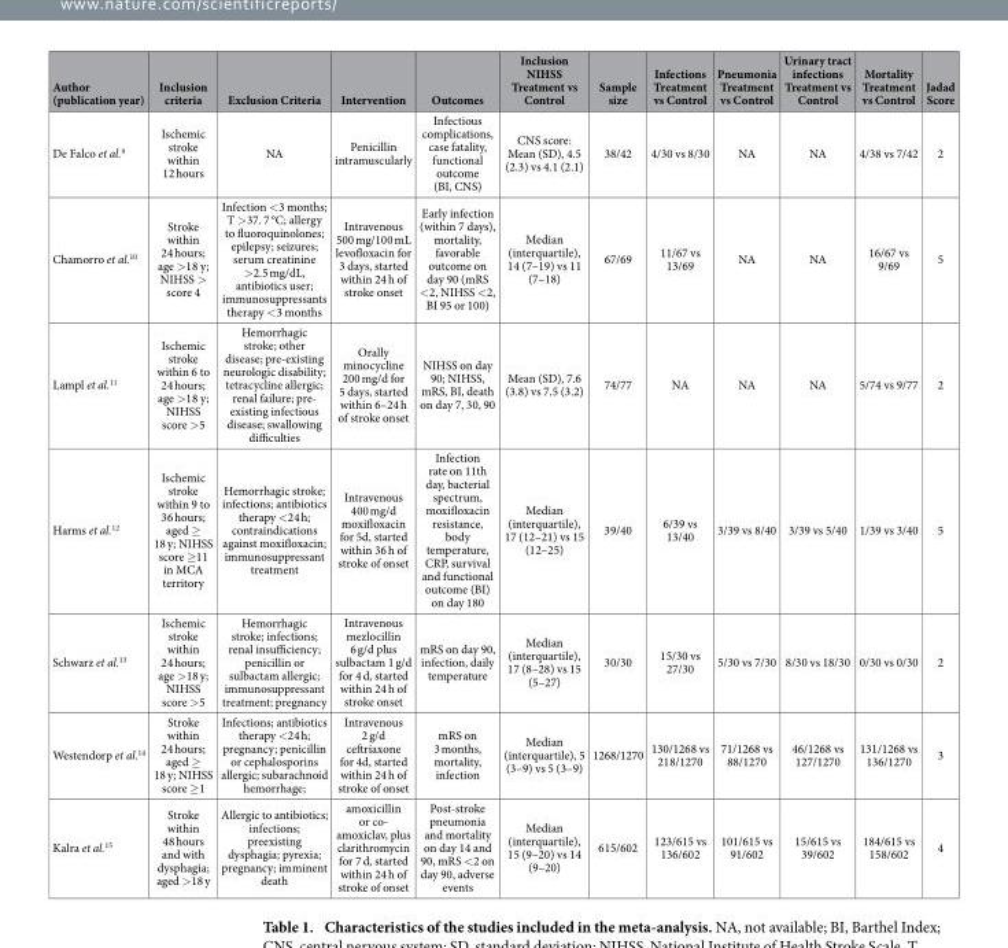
<table><thead><tr><td>Author (publication year)</td><td>Inclusion criteria</td><td>Exclusion Criteria</td><td>Intervention</td><td>Outcomes</td><td>Inclusion NIHSS Treatment vs Control</td><td>Sample size</td><td>Infections Treatment vs Control</td><td>Pneumonia Treatment vs Control</td><td>Urinary tract infections Treatment vs Control</td><td>Mortality Treatment vs Control</td><td>Jadad Score</td></tr></thead><tbody><tr><td>De Falco et al.<sup>9</sup></td><td>Ischemic stroke within 12 hours</td><td>NA</td><td>Penicillin intramuscularly</td><td>Infectious complications, case fatality, functional outcome (BI, CNS)</td><td>CNS score: Mean (SD), 4.5 (2.3) vs 4.1 (2.1)</td><td>38/42</td><td>4/30 vs 8/30</td><td>NA</td><td>NA</td><td>4/38 vs 7/42</td><td>2</td></tr><tr><td>Chamorro et al.<sup>10</sup></td><td>Stroke within 24 hours; age &gt; 18 y; NIHSS &gt; score 4</td><td>Infection &lt; 3 months; T &gt; 37. 7 °C; allergy to fluoroquinolones; epilepsy; seizures; serum creatinine &gt; 2.5 mg/dL, antibiotics user; immunosuppressants therapy &lt; 3 months</td><td>Intravenous 500 mg/100 mL levofloxacin for 3 days, started within 24 h of stroke onset</td><td>Early infection (within 7 days), mortality, favorable outcome on day 90 (mRS &lt; 2, NIHSS &lt; 2, BI 95 or 100)</td><td>Median (interquartile), 14 (7–19) vs 11 (7–18)</td><td>67/69</td><td>11/67 vs 13/69</td><td>NA</td><td>NA</td><td>16/67 vs 9/69</td><td>5</td></tr><tr><td>Lampl et al.<sup>11</sup></td><td>Ischemic stroke within 6 to 24 hours; age &gt; 18 y; NIHSS score &gt; 5</td><td>Hemorrhagic stroke; other disease; pre-existing neurologic disability; tetracycline allergic; renal failure; pre- existing infectious disease; swallowing difficulties</td><td>Orally minocycline 200 mg/d for 5 days, started within 6–24 h of stroke onset</td><td>NIHSS on day 90; NIHSS, mRS, BI, death on day 7, 30, 90</td><td>Mean (SD), 7.6 (3.8) vs 7.5 (3.2)</td><td>74/77</td><td>NA</td><td>NA</td><td>NA</td><td>5/74 vs 9/77</td><td>2</td></tr><tr><td>Harms et al.<sup>12</sup></td><td>Ischemic stroke within 9 to 36 hours; aged ≥ 18 y; NIHSS score ≥ 11 in MCA territory</td><td>Hemorrhagic stroke; infections; antibiotics therapy &lt; 24 h; contraindications against moxifloxacin; immunosuppressant treatment</td><td>Intravenous 400 mg/d moxifloxacin for 5d, started within 36 h of stroke of onset</td><td>Infection rate on 11th day, bacterial spectrum, moxifloxacin resistance, body temperature, CRP, survival and functional outcome (BI) on day 180</td><td>Median (interquartile), 17 (12–21) vs 15 (12–25)</td><td>39/40</td><td>6/39 vs 13/40</td><td>3/39 vs 8/40</td><td>3/39 vs 5/40</td><td>1/39 vs 3/40</td><td>5</td></tr><tr><td>Schwarz et al.<sup>13</sup></td><td>Ischemic stroke within 24 hours; age &gt; 18 y; NIHSS score &gt; 5</td><td>Hemorrhagic stroke; infections; renal insufficiency; penicillin or sulbactam allergic; immunosuppressant treatment; pregnancy</td><td>Intravenous mezlocillin 6 g/d plus sulbactam 1 g/d for 4 d, started within 24 h of stroke onset</td><td>mRS on day 90, infection, daily temperature</td><td>Median (interquartile), 17 (8–28) vs 15 (5–27)</td><td>30/30</td><td>15/30 vs 27/30</td><td>5/30 vs 7/30</td><td>8/30 vs 18/30</td><td>0/30 vs 0/30</td><td>2</td></tr><tr><td>Westendorp et al.<sup>14</sup></td><td>Stroke within 24 hours; aged ≥ 18 y; NIHSS score ≥ 1</td><td>Infections; antibiotics therapy &lt; 24 h; pregnancy; penicillin or cephalosporins allergic; subarachnoid hemorrhage;</td><td>Intravenous 2 g/d ceftriaxone for 4d, started within 24 h of stroke of onset</td><td>mRS on 3 months, mortality, infection</td><td>Median (interquartile), 5 (3–9) vs 5 (3–9)</td><td>1268/1270</td><td>130/1268 vs 218/1270</td><td>71/1268 vs 88/1270</td><td>46/1268 vs 127/1270</td><td>131/1268 vs 136/1270</td><td>3</td></tr><tr><td>Kalra et al.<sup>15</sup></td><td>Stroke within 48 hours and with dysphagia; aged &gt; 18 y</td><td>Allergic to antibiotics; infections; preexisting dysphagia; pyrexia; pregnancy; imminent death</td><td>amoxicillin or co- amoxiclav, plus clarithromycin for 7 d, started within 24 h of stroke of onset</td><td>Post-stroke pneumonia and mortality on day 14 and 90, mRS &lt; 2 on day 90, adverse events</td><td>Median (interquartile), 15 (9–20) vs 14 (9–20)</td><td>615/602</td><td>123/615 vs 136/602</td><td>101/615 vs 91/602</td><td>15/615 vs 39/602</td><td>184/615 vs 158/602</td><td>4</td></tr></tbody></table>